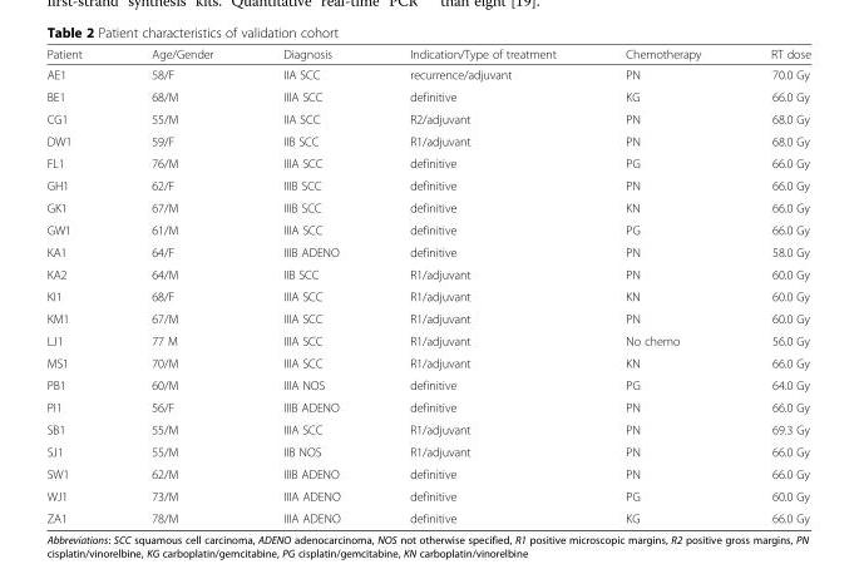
<table><thead><tr><td>Patient</td><td>Age/Gender</td><td>Diagnosis</td><td>Indication/Type of treatment</td><td>Chemotherapy</td><td>RT dose</td></tr></thead><tbody><tr><td>AE1</td><td>58/F</td><td>IIA SCC</td><td>recurrence/adjuvant</td><td>PN</td><td>70.0 Gy</td></tr><tr><td>BE1</td><td>68/M</td><td>IIIA SCC</td><td>definitive</td><td>KG</td><td>66.0 Gy</td></tr><tr><td>CG1</td><td>55/M</td><td>IIA SCC</td><td>R2/adjuvant</td><td>PN</td><td>68.0 Gy</td></tr><tr><td>DW1</td><td>59/F</td><td>IIB SCC</td><td>R1/adjuvant</td><td>PN</td><td>68.0 Gy</td></tr><tr><td>FL1</td><td>76/M</td><td>IIIA SCC</td><td>definitive</td><td>PG</td><td>66.0 Gy</td></tr><tr><td>GH1</td><td>62/F</td><td>IIIB SCC</td><td>definitive</td><td>PN</td><td>66.0 Gy</td></tr><tr><td>GK1</td><td>67/M</td><td>IIIB SCC</td><td>definitive</td><td>KN</td><td>66.0 Gy</td></tr><tr><td>GW1</td><td>61/M</td><td>IIIA SCC</td><td>definitive</td><td>PG</td><td>66.0 Gy</td></tr><tr><td>KA1</td><td>64/F</td><td>IIIB ADENO</td><td>definitive</td><td>PN</td><td>58.0 Gy</td></tr><tr><td>KA2</td><td>64/M</td><td>IIB SCC</td><td>R1/adjuvant</td><td>PN</td><td>60.0 Gy</td></tr><tr><td>KI1</td><td>68/F</td><td>IIIA SCC</td><td>R1/adjuvant</td><td>KN</td><td>60.0 Gy</td></tr><tr><td>KM1</td><td>67/M</td><td>IIIA SCC</td><td>R1/adjuvant</td><td>PN</td><td>60.0 Gy</td></tr><tr><td>LJ1</td><td>77 M</td><td>IIIA SCC</td><td>R1/adjuvant</td><td>No chemo</td><td>56.0 Gy</td></tr><tr><td>MS1</td><td>70/M</td><td>IIIA SCC</td><td>R1/adjuvant</td><td>KN</td><td>66.0 Gy</td></tr><tr><td>PB1</td><td>60/M</td><td>IIIA NOS</td><td>definitive</td><td>PG</td><td>64.0 Gy</td></tr><tr><td>PI1</td><td>56/F</td><td>IIIB ADENO</td><td>definitive</td><td>PN</td><td>66.0 Gy</td></tr><tr><td>SB1</td><td>55/M</td><td>IIIA SCC</td><td>R1/adjuvant</td><td>PN</td><td>69.3 Gy</td></tr><tr><td>SJ1</td><td>55/M</td><td>IIB NOS</td><td>R1/adjuvant</td><td>PN</td><td>66.0 Gy</td></tr><tr><td>SW1</td><td>62/M</td><td>IIIB ADENO</td><td>definitive</td><td>PN</td><td>66.0 Gy</td></tr><tr><td>WJ1</td><td>73/M</td><td>IIIA ADENO</td><td>definitive</td><td>PG</td><td>60.0 Gy</td></tr><tr><td>ZA1</td><td>78/M</td><td>IIIA ADENO</td><td>definitive</td><td>KG</td><td>66.0 Gy</td></tr></tbody></table>